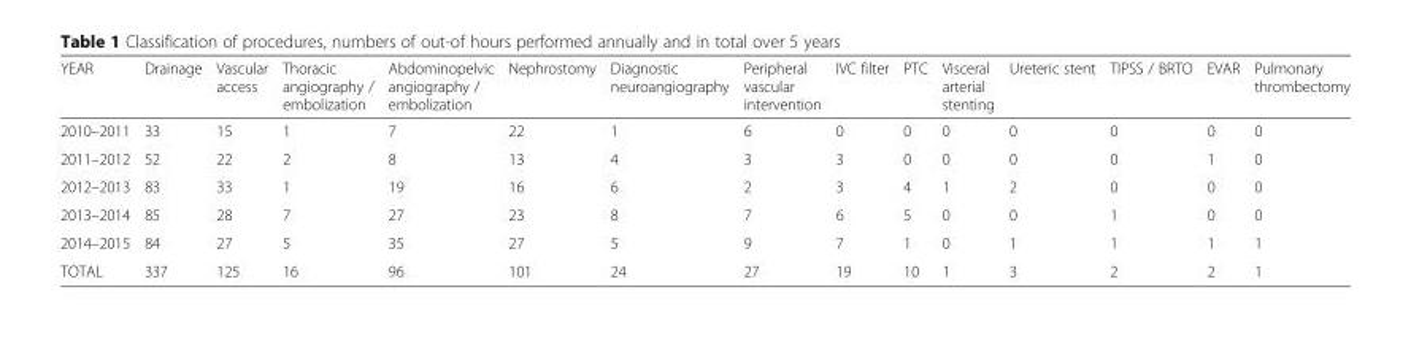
<table><thead><tr><td>YEAR</td><td>Drainage</td><td>Vascular access</td><td>Thoracic angiography / embolization</td><td>Abdominopelvic angiography / embolization</td><td>Nephrostomy</td><td>Diagnostic neuroangiography</td><td>Peripheral vascular intervention</td><td>IVC filter</td><td>PTC</td><td>Visceral arterial stenting</td><td>Ureteric stent</td><td>TIPSS / BRTO</td><td>EVAR</td><td>Pulmonary thrombectomy</td></tr></thead><tbody><tr><td>2010–2011</td><td>33</td><td>15</td><td>1</td><td>7</td><td>22</td><td>1</td><td>6</td><td>0</td><td>0</td><td>0</td><td>0</td><td>0</td><td>0</td><td>0</td></tr><tr><td>2011–2012</td><td>52</td><td>22</td><td>2</td><td>8</td><td>13</td><td>4</td><td>3</td><td>3</td><td>0</td><td>0</td><td>0</td><td>0</td><td>1</td><td>0</td></tr><tr><td>2012–2013</td><td>83</td><td>33</td><td>1</td><td>19</td><td>16</td><td>6</td><td>2</td><td>3</td><td>4</td><td>1</td><td>2</td><td>0</td><td>0</td><td>0</td></tr><tr><td>2013–2014</td><td>85</td><td>28</td><td>7</td><td>27</td><td>23</td><td>8</td><td>7</td><td>6</td><td>5</td><td>0</td><td>0</td><td>1</td><td>0</td><td>0</td></tr><tr><td>2014–2015</td><td>84</td><td>27</td><td>5</td><td>35</td><td>27</td><td>5</td><td>9</td><td>7</td><td>1</td><td>0</td><td>1</td><td>1</td><td>1</td><td>1</td></tr><tr><td>TOTAL</td><td>337</td><td>125</td><td>16</td><td>96</td><td>101</td><td>24</td><td>27</td><td>19</td><td>10</td><td>1</td><td>3</td><td>2</td><td>2</td><td>1</td></tr></tbody></table>